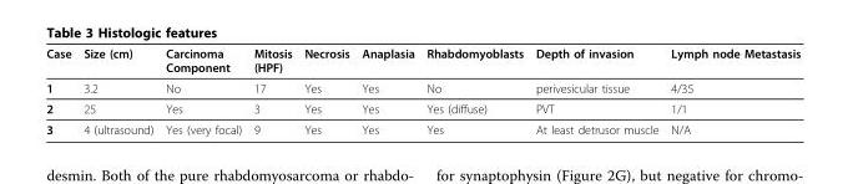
<table><thead><tr><td>Case</td><td>Size (cm)</td><td>Carcinoma Component</td><td>Mitosis (HPF)</td><td>Necrosis</td><td>Anaplasia</td><td>Rhabdomyoblasts</td><td>Depth of invasion</td><td>Lymph node Metastasis</td></tr></thead><tbody><tr><td>1</td><td>3.2</td><td>No</td><td>17</td><td>Yes</td><td>Yes</td><td>No</td><td>perivesicular tissue</td><td>4/35</td></tr><tr><td>2</td><td>25</td><td>Yes</td><td>3</td><td>Yes</td><td>Yes</td><td>Yes (diffuse)</td><td>PVT</td><td>1/1</td></tr><tr><td>3</td><td>4 (ultrasound)</td><td>Yes (very focal)</td><td>9</td><td>Yes</td><td>Yes</td><td>Yes</td><td>At least detrusor muscle</td><td>N/A</td></tr></tbody></table>